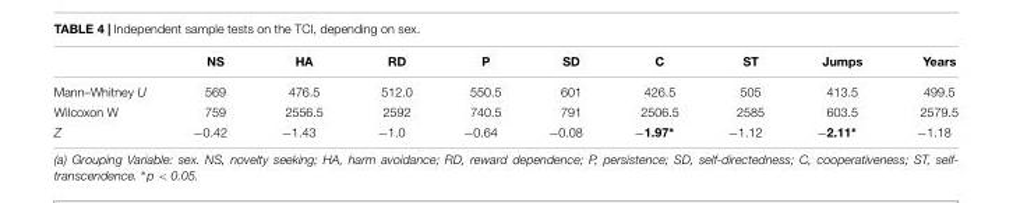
<table><thead><tr><td></td><td>NS</td><td>HA</td><td>RD</td><td>P</td><td>SD</td><td>C</td><td>ST</td><td>Jumps</td><td>Years</td></tr></thead><tbody><tr><td>Mann–Whitney U</td><td>569</td><td>476.5</td><td>512.0</td><td>550.5</td><td>601</td><td>426.5</td><td>505</td><td>413.5</td><td>499.5</td></tr><tr><td>Wilcoxon W</td><td>759</td><td>2556.5</td><td>2592</td><td>740.5</td><td>791</td><td>2506.5</td><td>2585</td><td>603.5</td><td>2579.5</td></tr><tr><td>Z</td><td>−0.42</td><td>−1.43</td><td>−1.0</td><td>−0.64</td><td>−0.08</td><td>−1.97∗</td><td>−1.12</td><td>−2.11∗</td><td>−1.18</td></tr></tbody></table>